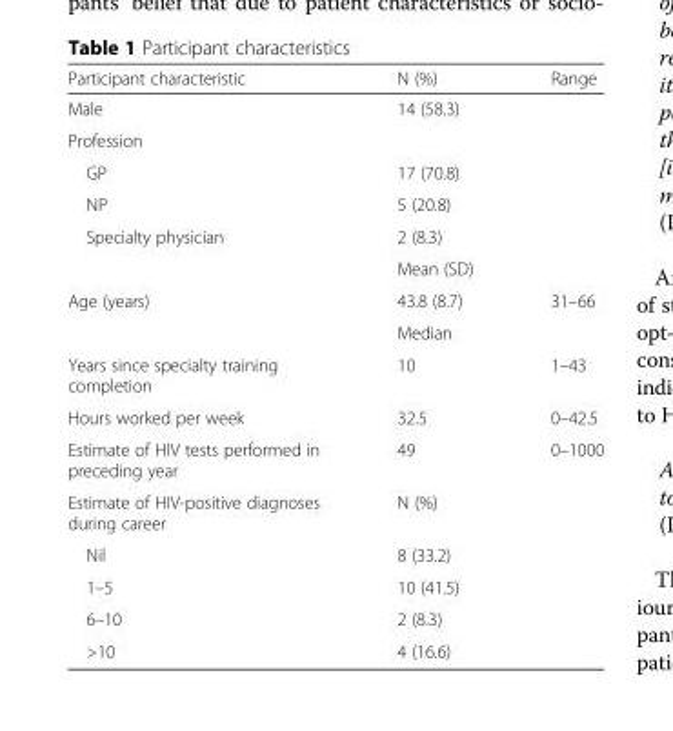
<table><thead><tr><td>Participant characteristic</td><td>N (%)</td><td>Range</td></tr></thead><tbody><tr><td>Male</td><td>14 (58.3)</td><td></td></tr><tr><td colspan="3">Profession</td></tr><tr><td>GP</td><td>17 (70.8)</td><td></td></tr><tr><td>NP</td><td>5 (20.8)</td><td></td></tr><tr><td rowspan="2">Specialty physician</td><td>2 (8.3)</td><td></td></tr><tr><td>Mean (SD)</td><td></td></tr><tr><td rowspan="2">Age (years)</td><td>43.8 (8.7)</td><td>31–66</td></tr><tr><td>Median</td><td></td></tr><tr><td>Years since specialty training completion</td><td>10</td><td>1–43</td></tr><tr><td>Hours worked per week</td><td>32.5</td><td>0–42.5</td></tr><tr><td>Estimate of HIV tests performed in preceding year</td><td>49</td><td>0–1000</td></tr><tr><td>Estimate of HIV-positive diagnoses during career</td><td>N (%)</td><td></td></tr><tr><td>Nil</td><td>8 (33.2)</td><td></td></tr><tr><td>1–5</td><td>10 (41.5)</td><td></td></tr><tr><td>6–10</td><td>2 (8.3)</td><td></td></tr><tr><td>&gt;10</td><td>4 (16.6)</td><td></td></tr></tbody></table>